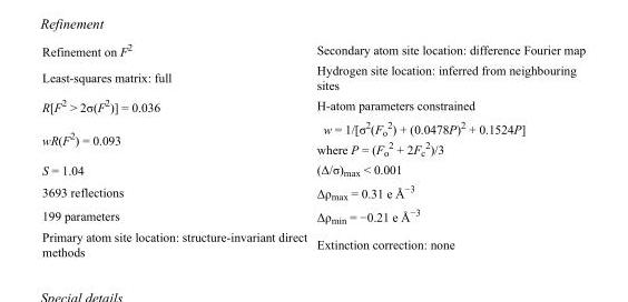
<table><tbody><tr><td>Refinement on F<sup>2</sup></td><td>Secondary atom site location: difference Fourier map</td></tr><tr><td>Least-squares matrix: full</td><td>Hydrogen site location: inferred from neighbouring sites</td></tr><tr><td>R[F<sup>2</sup> &gt; 2σ(F<sup>2</sup>)] = 0.036</td><td>H-atom parameters constrained</td></tr><tr><td>wR(F<sup>2</sup>) = 0.093</td><td>w = 1/[σ<sup>2</sup>(F<sub>o</sub> <sup>2</sup>) + (0.0478P)<sup>2</sup> + 0.1524P] where P = (F<sub>o</sub> <sup>2</sup> + 2F<sub>c</sub> <sup>2</sup>)/3</td></tr><tr><td>S = 1.04</td><td>(Δ/σ)<sub>max</sub> &lt; 0.001</td></tr><tr><td>3693 reflections</td><td>Δρ<sub>max</sub> = 0.31 e Å<sup>−3</sup></td></tr><tr><td>199 parameters</td><td>Δρ<sub>min</sub> = −0.21 e Å<sup>−3</sup></td></tr><tr><td>Primary atom site location: structure-invariant direct methods</td><td>Extinction correction: none</td></tr></tbody></table>